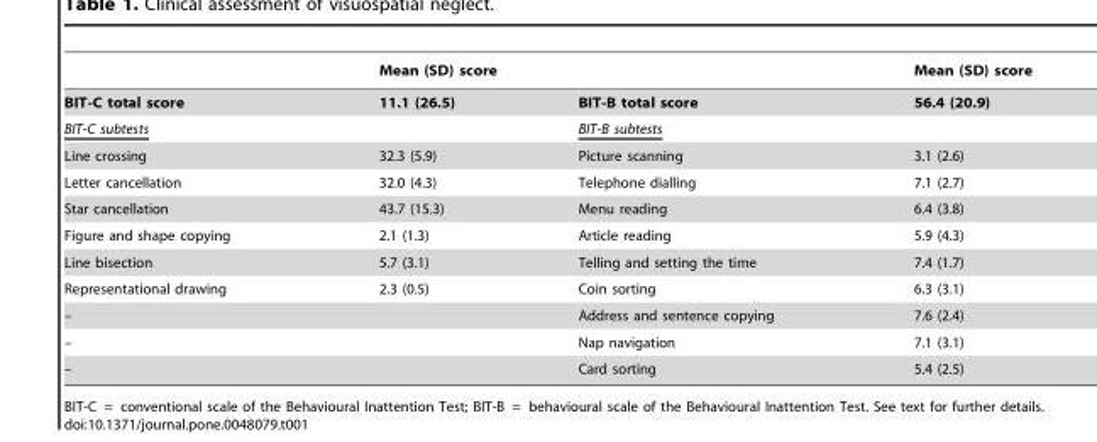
<table><thead><tr><td></td><td>Mean (SD) score</td><td></td><td>Mean (SD) score</td></tr></thead><tbody><tr><td>BIT-C total score</td><td>11.1 (26.5)</td><td>BIT-B total score</td><td>56.4 (20.9)</td></tr><tr><td>BIT-C subtests</td><td></td><td>BIT-B subtests</td><td></td></tr><tr><td>Line crossing</td><td>32.3 (5.9)</td><td>Picture scanning</td><td>3.1 (2.6)</td></tr><tr><td>Letter cancellation</td><td>32.0 (4.3)</td><td>Telephone dialling</td><td>7.1 (2.7)</td></tr><tr><td>Star cancellation</td><td>43.7 (15.3)</td><td>Menu reading</td><td>6.4 (3.8)</td></tr><tr><td>Figure and shape copying</td><td>2.1 (1.3)</td><td>Article reading</td><td>5.9 (4.3)</td></tr><tr><td>Line bisection</td><td>5.7 (3.1)</td><td>Telling and setting the time</td><td>7.4 (1.7)</td></tr><tr><td>Representational drawing</td><td>2.3 (0.5)</td><td>Coin sorting</td><td>6.3 (3.1)</td></tr><tr><td>–</td><td></td><td>Address and sentence copying</td><td>7.6 (2.4)</td></tr><tr><td>–</td><td></td><td>Nap navigation</td><td>7.1 (3.1)</td></tr><tr><td>–</td><td></td><td>Card sorting</td><td>5.4 (2.5)</td></tr></tbody></table>